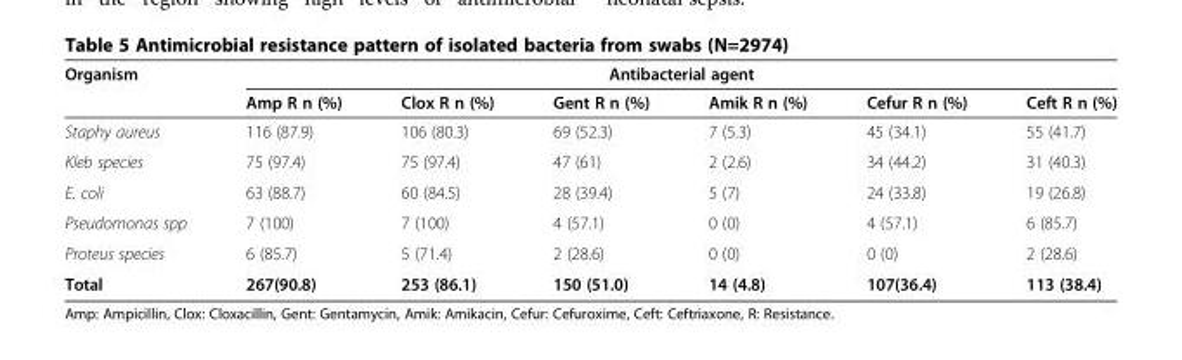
<table><thead><tr><td rowspan="2">Organism</td><td colspan="6">Antibacterial agent</td></tr><tr><td>Amp R n (%)</td><td>Clox R n (%)</td><td>Gent R n (%)</td><td>Amik R n (%)</td><td>Cefur R n (%)</td><td>Ceft R n (%)</td></tr></thead><tbody><tr><td>Staphy aureus</td><td>116 (87.9)</td><td>106 (80.3)</td><td>69 (52.3)</td><td>7 (5.3)</td><td>45 (34.1)</td><td>55 (41.7)</td></tr><tr><td>Kleb species</td><td>75 (97.4)</td><td>75 (97.4)</td><td>47 (61)</td><td>2 (2.6)</td><td>34 (44.2)</td><td>31 (40.3)</td></tr><tr><td>E. coli</td><td>63 (88.7)</td><td>60 (84.5)</td><td>28 (39.4)</td><td>5 (7)</td><td>24 (33.8)</td><td>19 (26.8)</td></tr><tr><td>Pseudomonas spp</td><td>7 (100)</td><td>7 (100)</td><td>4 (57.1)</td><td>0 (0)</td><td>4 (57.1)</td><td>6 (85.7)</td></tr><tr><td>Proteus species</td><td>6 (85.7)</td><td>5 (71.4)</td><td>2 (28.6)</td><td>0 (0)</td><td>0 (0)</td><td>2 (28.6)</td></tr><tr><td>Total</td><td>267(90.8)</td><td>253 (86.1)</td><td>150 (51.0)</td><td>14 (4.8)</td><td>107(36.4)</td><td>113 (38.4)</td></tr></tbody></table>